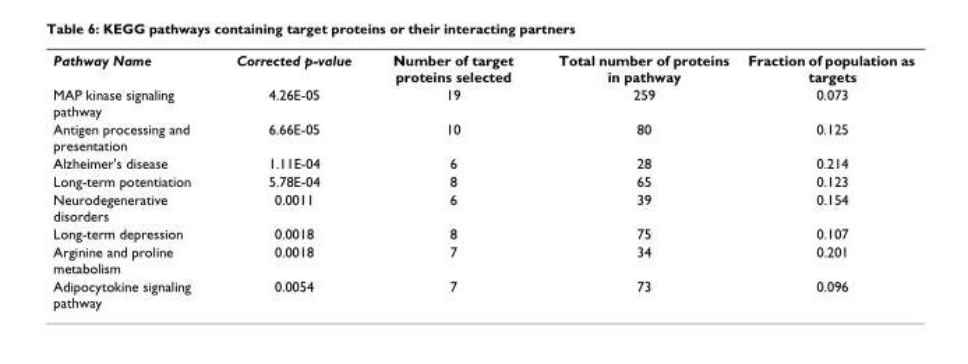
<table><tbody><tr><td>Pathway Name</td><td>Corrected p-value</td><td>Number of target proteins selected</td><td>Total number of proteins in pathway</td><td>Fraction of population as targets</td></tr><tr><td>MAP kinase signaling pathway</td><td>4.26E-05</td><td>19</td><td>259</td><td>0.073</td></tr><tr><td>Antigen processing and presentation</td><td>6.66E-05</td><td>10</td><td>80</td><td>0.125</td></tr><tr><td>Alzheimer&#x27;s disease</td><td>1.11E-04</td><td>6</td><td>28</td><td>0.214</td></tr><tr><td>Long-term potentiation</td><td>5.78E-04</td><td>8</td><td>65</td><td>0.123</td></tr><tr><td>Neurodegenerative disorders</td><td>0.0011</td><td>6</td><td>39</td><td>0.154</td></tr><tr><td>Long-term depression</td><td>0.0018</td><td>8</td><td>75</td><td>0.107</td></tr><tr><td>Arginine and proline metabolism</td><td>0.0018</td><td>7</td><td>34</td><td>0.201</td></tr><tr><td>Adipocytokine signaling pathway</td><td>0.0054</td><td>7</td><td>73</td><td>0.096</td></tr></tbody></table>